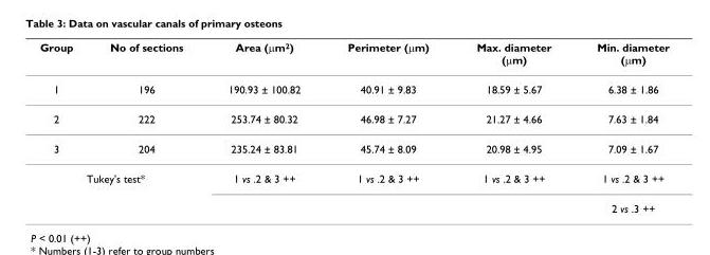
<table><thead><tr><td>Group</td><td>No of sections</td><td>Area (μm<sup>2</sup>)</td><td>Perimeter (μm)</td><td>Max. diameter (μm)</td><td>Min. diameter (μm)</td></tr></thead><tbody><tr><td>1</td><td>196</td><td>190.93 ± 100.82</td><td>40.91 ± 9.83</td><td>18.59 ± 5.67</td><td>6.38 ± 1.86</td></tr><tr><td>2</td><td>222</td><td>253.74 ± 80.32</td><td>46.98 ± 7.27</td><td>21.27 ± 4.66</td><td>7.63 ± 1.84</td></tr><tr><td>3</td><td>204</td><td>235.24 ± 83.81</td><td>45.74 ± 8.09</td><td>20.98 ± 4.95</td><td>7.09 ± 1.67</td></tr><tr><td colspan="2">Tukey&#x27;s test*</td><td>1 vs .2 &amp; 3 ++</td><td>1 vs .2 &amp; 3 ++</td><td>1 vs .2 &amp; 3 ++</td><td>1 vs .2 &amp; 3 ++</td></tr><tr><td></td><td></td><td></td><td></td><td></td><td>2 vs .3 ++</td></tr></tbody></table>